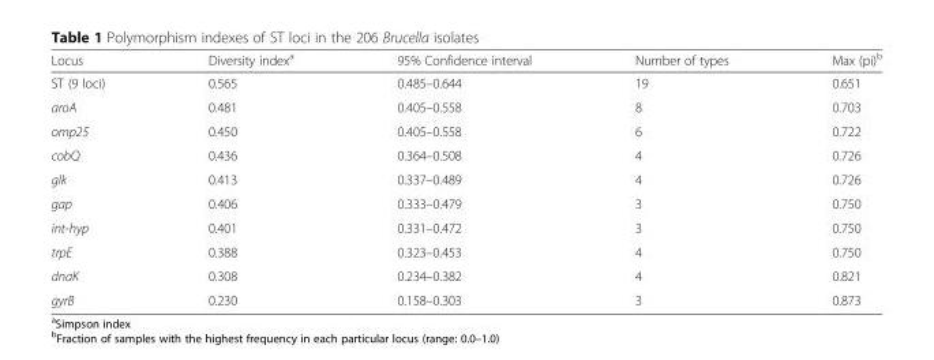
<table><thead><tr><td>Locus</td><td>Diversity index<sup>a</sup></td><td>95% Confidence interval</td><td>Number of types</td><td>Max (pi)<sup>b</sup></td></tr></thead><tbody><tr><td>ST (9 loci)</td><td>0.565</td><td>0.485–0.644</td><td>19</td><td>0.651</td></tr><tr><td>aroA</td><td>0.481</td><td>0.405–0.558</td><td>8</td><td>0.703</td></tr><tr><td>omp25</td><td>0.450</td><td>0.405–0.558</td><td>6</td><td>0.722</td></tr><tr><td>cobQ</td><td>0.436</td><td>0.364–0.508</td><td>4</td><td>0.726</td></tr><tr><td>glk</td><td>0.413</td><td>0.337–0.489</td><td>4</td><td>0.726</td></tr><tr><td>gap</td><td>0.406</td><td>0.333–0.479</td><td>3</td><td>0.750</td></tr><tr><td>int-hyp</td><td>0.401</td><td>0.331–0.472</td><td>3</td><td>0.750</td></tr><tr><td>trpE</td><td>0.388</td><td>0.323–0.453</td><td>4</td><td>0.750</td></tr><tr><td>dnaK</td><td>0.308</td><td>0.234–0.382</td><td>4</td><td>0.821</td></tr><tr><td>gyrB</td><td>0.230</td><td>0.158–0.303</td><td>3</td><td>0.873</td></tr></tbody></table>